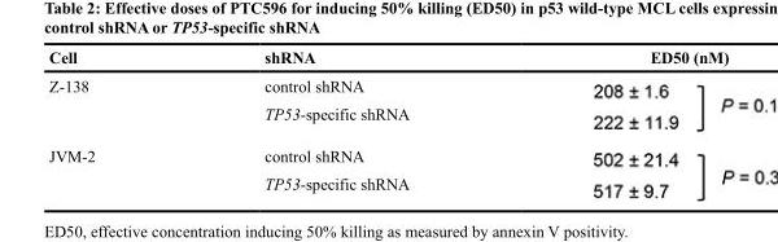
<table><thead><tr><td>Cell</td><td>shRNA</td><td>ED50 (nM)</td></tr></thead><tbody><tr><td rowspan="2">Z-138</td><td>control shRNA</td><td rowspan="2"></td></tr><tr><td>TP53-specific shRNA</td></tr><tr><td rowspan="2">JVM-2</td><td>control shRNA</td><td rowspan="2"></td></tr><tr><td>TP53-specific shRNA</td></tr></tbody></table>